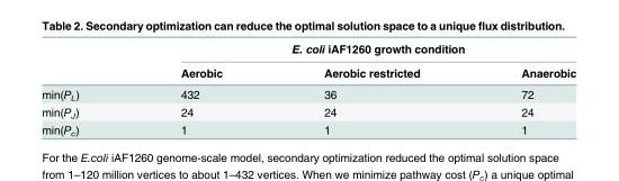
<table><thead><tr><td rowspan="2"></td><td colspan="3">E. coli iAF1260 growth condition</td></tr><tr><td>Aerobic</td><td>Aerobic restricted</td><td>Anaerobic</td></tr></thead><tbody><tr><td>min(P<sub>L</sub>)</td><td>432</td><td>36</td><td>72</td></tr><tr><td>min(P<sub>J</sub>)</td><td>24</td><td>24</td><td>24</td></tr><tr><td>min(P<sub>c</sub>)</td><td>1</td><td>1</td><td>1</td></tr></tbody></table>